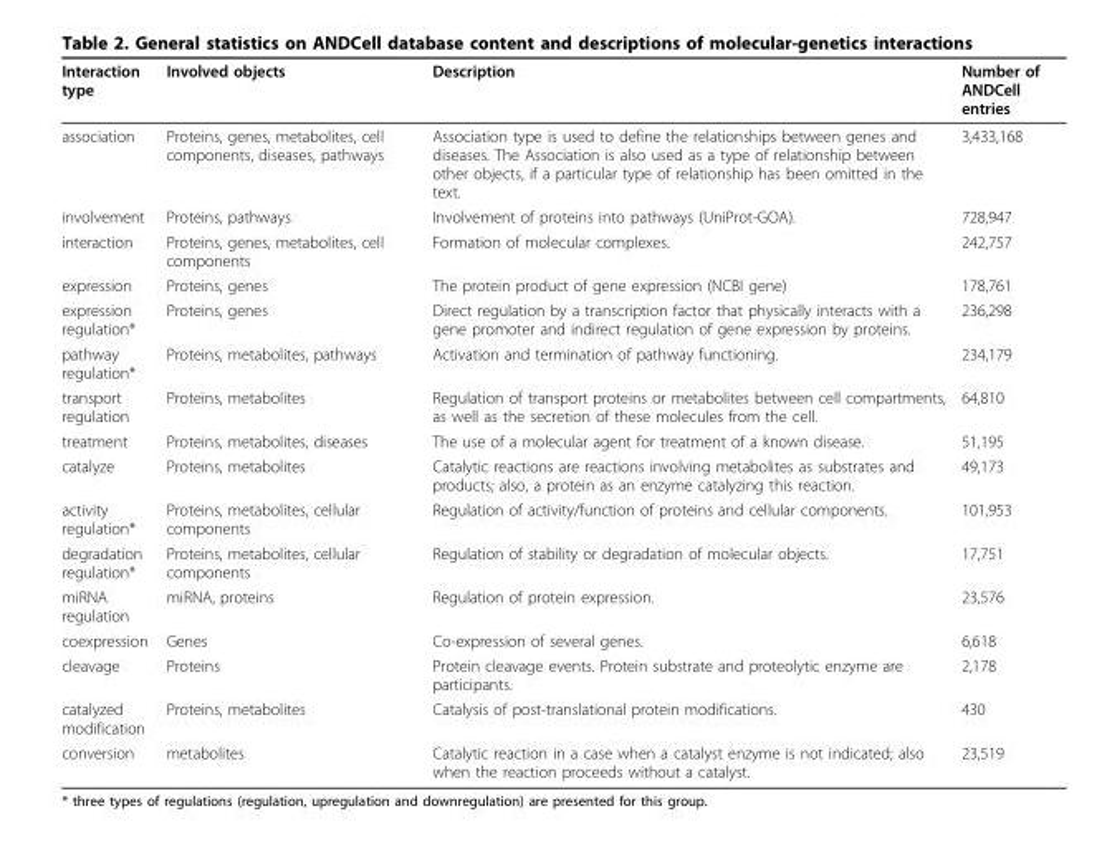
<table><thead><tr><td>Interaction type</td><td>Involved objects</td><td>Description</td><td>Number of ANDCell entries</td></tr></thead><tbody><tr><td>association</td><td>Proteins, genes, metabolites, cell components, diseases, pathways</td><td>Association type is used to define the relationships between genes and diseases. The Association is also used as a type of relationship between other objects, if a particular type of relationship has been omitted in the text.</td><td>3,433,168</td></tr><tr><td>involvement</td><td>Proteins, pathways</td><td>Involvement of proteins into pathways (UniProt-GOA).</td><td>728,947</td></tr><tr><td>interaction</td><td>Proteins, genes, metabolites, cell components</td><td>Formation of molecular complexes.</td><td>242,757</td></tr><tr><td>expression</td><td>Proteins, genes</td><td>The protein product of gene expression (NCBI gene)</td><td>178,761</td></tr><tr><td>expression regulation*</td><td>Proteins, genes</td><td>Direct regulation by a transcription factor that physically interacts with a gene promoter and indirect regulation of gene expression by proteins.</td><td>236,298</td></tr><tr><td>pathway regulation*</td><td>Proteins, metabolites, pathways</td><td>Activation and termination of pathway functioning.</td><td>234,179</td></tr><tr><td>transport regulation</td><td>Proteins, metabolites</td><td>Regulation of transport proteins or metabolites between cell compartments, as well as the secretion of these molecules from the cell.</td><td>64,810</td></tr><tr><td>treatment</td><td>Proteins, metabolites, diseases</td><td>The use of a molecular agent for treatment of a known disease.</td><td>51,195</td></tr><tr><td>catalyze</td><td>Proteins, metabolites</td><td>Catalytic reactions are reactions involving metabolites as substrates and products; also, a protein as an enzyme catalyzing this reaction.</td><td>49,173</td></tr><tr><td>activity regulation*</td><td>Proteins, metabolites, cellular components</td><td>Regulation of activity/function of proteins and cellular components.</td><td>101,953</td></tr><tr><td>degradation regulation*</td><td>Proteins, metabolites, cellular components</td><td>Regulation of stability or degradation of molecular objects.</td><td>17,751</td></tr><tr><td>miRNA regulation</td><td>miRNA, proteins</td><td>Regulation of protein expression.</td><td>23,576</td></tr><tr><td>coexpression</td><td>Genes</td><td>Co-expression of several genes.</td><td>6,618</td></tr><tr><td>cleavage</td><td>Proteins</td><td>Protein cleavage events. Protein substrate and proteolytic enzyme are participants.</td><td>2,178</td></tr><tr><td>catalyzed modification</td><td>Proteins, metabolites</td><td>Catalysis of post-translational protein modifications.</td><td>430</td></tr><tr><td>conversion</td><td>metabolites</td><td>Catalytic reaction in a case when a catalyst enzyme is not indicated; also when the reaction proceeds without a catalyst.</td><td>23,519</td></tr></tbody></table>